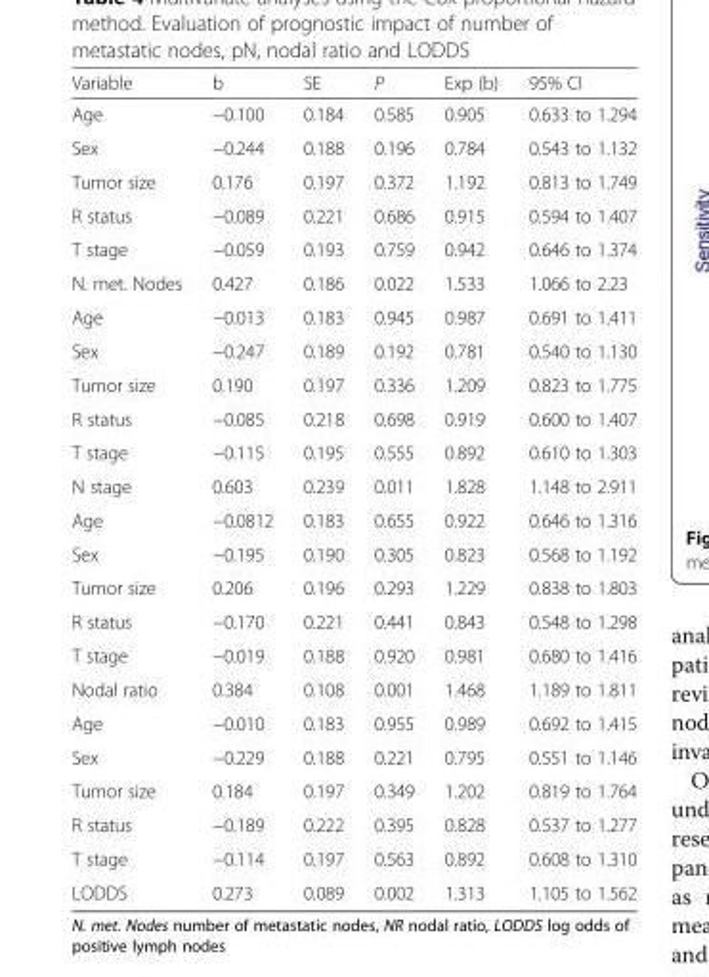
<table><thead><tr><td>Variable</td><td>b</td><td>SE</td><td>P</td><td>Exp (b)</td><td>95% CI</td></tr></thead><tbody><tr><td>Age</td><td>−0.100</td><td>0.184</td><td>0.585</td><td>0.905</td><td>0.633 to 1.294</td></tr><tr><td>Sex</td><td>−0.244</td><td>0.188</td><td>0.196</td><td>0.784</td><td>0.543 to 1.132</td></tr><tr><td>Tumor size</td><td>0.176</td><td>0.197</td><td>0.372</td><td>1.192</td><td>0.813 to 1.749</td></tr><tr><td>R status</td><td>−0.089</td><td>0.221</td><td>0.686</td><td>0.915</td><td>0.594 to 1.407</td></tr><tr><td>T stage</td><td>−0.059</td><td>0.193</td><td>0.759</td><td>0.942</td><td>0.646 to 1.374</td></tr><tr><td>N. met. Nodes</td><td>0.427</td><td>0.186</td><td>0.022</td><td>1.533</td><td>1.066 to 2.23</td></tr><tr><td>Age</td><td>−0.013</td><td>0.183</td><td>0.945</td><td>0.987</td><td>0.691 to 1.411</td></tr><tr><td>Sex</td><td>−0.247</td><td>0.189</td><td>0.192</td><td>0.781</td><td>0.540 to 1.130</td></tr><tr><td>Tumor size</td><td>0.190</td><td>0.197</td><td>0.336</td><td>1.209</td><td>0.823 to 1.775</td></tr><tr><td>R status</td><td>−0.085</td><td>0.218</td><td>0.698</td><td>0.919</td><td>0.600 to 1.407</td></tr><tr><td>T stage</td><td>−0.115</td><td>0.195</td><td>0.555</td><td>0.892</td><td>0.610 to 1.303</td></tr><tr><td>N stage</td><td>0.603</td><td>0.239</td><td>0.011</td><td>1.828</td><td>1.148 to 2.911</td></tr><tr><td>Age</td><td>−0.0812</td><td>0.183</td><td>0.655</td><td>0.922</td><td>0.646 to 1.316</td></tr><tr><td>Sex</td><td>−0.195</td><td>0.190</td><td>0.305</td><td>0.823</td><td>0.568 to 1.192</td></tr><tr><td>Tumor size</td><td>0.206</td><td>0.196</td><td>0.293</td><td>1.229</td><td>0.838 to 1.803</td></tr><tr><td>R status</td><td>−0.170</td><td>0.221</td><td>0.441</td><td>0.843</td><td>0.548 to 1.298</td></tr><tr><td>T stage</td><td>−0.019</td><td>0.188</td><td>0.920</td><td>0.981</td><td>0.680 to 1.416</td></tr><tr><td>Nodal ratio</td><td>0.384</td><td>0.108</td><td>0.001</td><td>1.468</td><td>1.189 to 1.811</td></tr><tr><td>Age</td><td>−0.010</td><td>0.183</td><td>0.955</td><td>0.989</td><td>0.692 to 1.415</td></tr><tr><td>Sex</td><td>−0.229</td><td>0.188</td><td>0.221</td><td>0.795</td><td>0.551 to 1.146</td></tr><tr><td>Tumor size</td><td>0.184</td><td>0.197</td><td>0.349</td><td>1.202</td><td>0.819 to 1.764</td></tr><tr><td>R status</td><td>−0.189</td><td>0.222</td><td>0.395</td><td>0.828</td><td>0.537 to 1.277</td></tr><tr><td>T stage</td><td>−0.114</td><td>0.197</td><td>0.563</td><td>0.892</td><td>0.608 to 1.310</td></tr><tr><td>LODDS</td><td>0.273</td><td>0.089</td><td>0.002</td><td>1.313</td><td>1.105 to 1.562</td></tr></tbody></table>